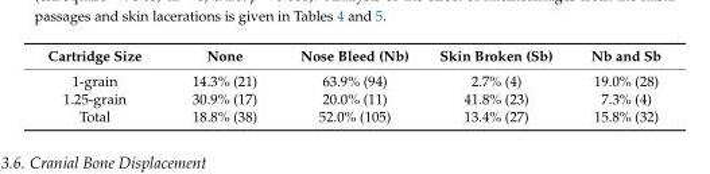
<table><thead><tr><td>Cartridge Size</td><td>None</td><td>Nose Bleed (Nb)</td><td>Skin Broken (Sb)</td><td>Nb and Sb</td></tr></thead><tbody><tr><td>1-grain</td><td>14.3% (21)</td><td>63.9% (94)</td><td>2.7% (4)</td><td>19.0% (28)</td></tr><tr><td>1.25-grain</td><td>30.9% (17)</td><td>20.0% (11)</td><td>41.8% (23)</td><td>7.3% (4)</td></tr><tr><td>Total</td><td>18.8% (38)</td><td>52.0% (105)</td><td>13.4% (27)</td><td>15.8% (32)</td></tr></tbody></table>